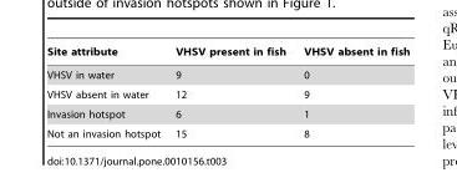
<table><thead><tr><td>Site attribute</td><td>VHSV present in fish</td><td>VHSV absent in fish</td></tr></thead><tbody><tr><td>VHSV in water</td><td>9</td><td>0</td></tr><tr><td>VHSV absent in water</td><td>12</td><td>9</td></tr><tr><td>Invasion hotspot</td><td>6</td><td>1</td></tr><tr><td>Not an invasion hotspot</td><td>15</td><td>8</td></tr></tbody></table>